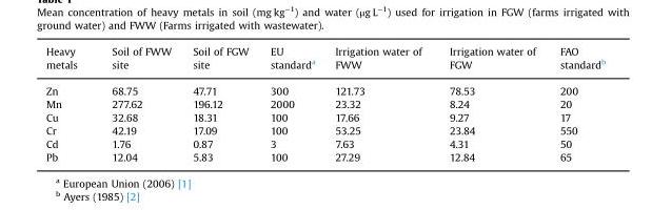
<table><thead><tr><td>Heavy metals</td><td>Soil of FWW site</td><td>Soil of FGW site</td><td>EU standard<sup>a</sup></td><td>Irrigation water of FWW</td><td>Irrigation water of FGW</td><td>FAO standard<sup>b</sup></td></tr></thead><tbody><tr><td>Zn</td><td>68.75</td><td>47.71</td><td>300</td><td>121.73</td><td>78.53</td><td>200</td></tr><tr><td>Mn</td><td>277.62</td><td>196.12</td><td>2000</td><td>23.32</td><td>8.24</td><td>20</td></tr><tr><td>Cu</td><td>32.68</td><td>18.31</td><td>100</td><td>17.66</td><td>9.27</td><td>17</td></tr><tr><td>Cr</td><td>42.19</td><td>17.09</td><td>100</td><td>53.25</td><td>23.84</td><td>550</td></tr><tr><td>Cd</td><td>1.76</td><td>0.87</td><td>3</td><td>7.63</td><td>4.31</td><td>50</td></tr><tr><td>Pb</td><td>12.04</td><td>5.83</td><td>100</td><td>27.29</td><td>12.84</td><td>65</td></tr></tbody></table>